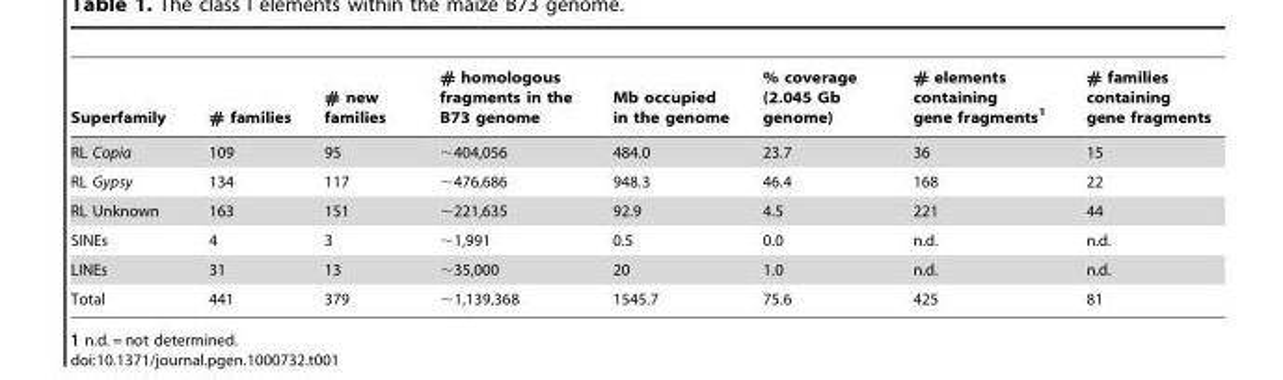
<table><thead><tr><td>Superfamily</td><td># families</td><td># new families</td><td># homologous fragments in the B73 genome</td><td>Mb occupied in the genome</td><td>% coverage (2.045 Gb genome)</td><td># elements containing gene fragments<sup>1</sup></td><td># families containing gene fragments</td></tr></thead><tbody><tr><td>RL Copia</td><td>109</td><td>95</td><td>∼404,056</td><td>484.0</td><td>23.7</td><td>36</td><td>15</td></tr><tr><td>RL Gypsy</td><td>134</td><td>117</td><td>∼476,686</td><td>948.3</td><td>46.4</td><td>168</td><td>22</td></tr><tr><td>RL Unknown</td><td>163</td><td>151</td><td>∼221,635</td><td>92.9</td><td>4.5</td><td>221</td><td>44</td></tr><tr><td>SINEs</td><td>4</td><td>3</td><td>∼1,991</td><td>0.5</td><td>0.0</td><td>n.d.</td><td>n.d.</td></tr><tr><td>LINEs</td><td>31</td><td>13</td><td>∼35,000</td><td>20</td><td>1.0</td><td>n.d.</td><td>n.d.</td></tr><tr><td>Total</td><td>441</td><td>379</td><td>∼1,139,368</td><td>1545.7</td><td>75.6</td><td>425</td><td>81</td></tr></tbody></table>